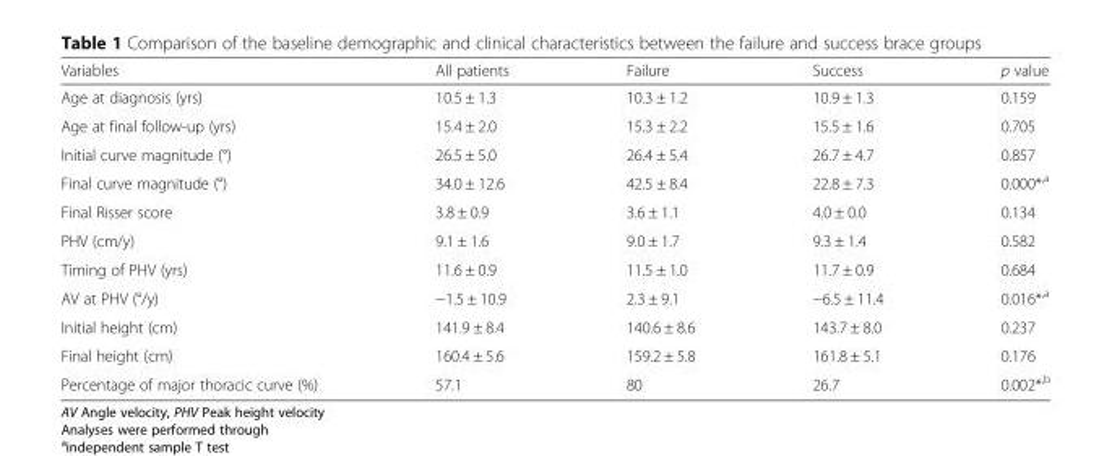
<table><thead><tr><td>Variables</td><td>All patients</td><td>Failure</td><td>Success</td><td>p value</td></tr></thead><tbody><tr><td>Age at diagnosis (yrs)</td><td>10.5 ± 1.3</td><td>10.3 ± 1.2</td><td>10.9 ± 1.3</td><td>0.159</td></tr><tr><td>Age at final follow-up (yrs)</td><td>15.4 ± 2.0</td><td>15.3 ± 2.2</td><td>15.5 ± 1.6</td><td>0.705</td></tr><tr><td>Initial curve magnitude (°)</td><td>26.5 ± 5.0</td><td>26.4 ± 5.4</td><td>26.7 ± 4.7</td><td>0.857</td></tr><tr><td>Final curve magnitude (°)</td><td>34.0 ± 12.6</td><td>42.5 ± 8.4</td><td>22.8 ± 7.3</td><td>0.000*<sup>,a</sup></td></tr><tr><td>Final Risser score</td><td>3.8 ± 0.9</td><td>3.6 ± 1.1</td><td>4.0 ± 0.0</td><td>0.134</td></tr><tr><td>PHV (cm/y)</td><td>9.1 ± 1.6</td><td>9.0 ± 1.7</td><td>9.3 ± 1.4</td><td>0.582</td></tr><tr><td>Timing of PHV (yrs)</td><td>11.6 ± 0.9</td><td>11.5 ± 1.0</td><td>11.7 ± 0.9</td><td>0.684</td></tr><tr><td>AV at PHV (°/y)</td><td>−1.5 ± 10.9</td><td>2.3 ± 9.1</td><td>−6.5 ± 11.4</td><td>0.016*<sup>,a</sup></td></tr><tr><td>Initial height (cm)</td><td>141.9 ± 8.4</td><td>140.6 ± 8.6</td><td>143.7 ± 8.0</td><td>0.237</td></tr><tr><td>Final height (cm)</td><td>160.4 ± 5.6</td><td>159.2 ± 5.8</td><td>161.8 ± 5.1</td><td>0.176</td></tr><tr><td>Percentage of major thoracic curve (%)</td><td>57.1</td><td>80</td><td>26.7</td><td>0.002*<sup>,b</sup></td></tr></tbody></table>